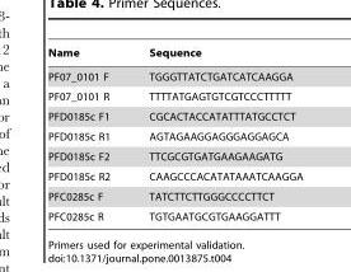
<table><thead><tr><td>Name</td><td>Sequence</td></tr></thead><tbody><tr><td>PF07_0101 F</td><td>TGGGTTATCTGATCATCAAGGA</td></tr><tr><td>PF07_0101 R</td><td>TTTTATGAGTGTCGTCCCTTTTT</td></tr><tr><td>PFD0185c F1</td><td>CGCACTACCATATTTATGCCTCT</td></tr><tr><td>PFD0185c R1</td><td>AGTAGAAGGAGGGAGGAGCA</td></tr><tr><td>PFD0185c F2</td><td>TTCGCGTGATGAAGAAGATG</td></tr><tr><td>PFD0185c R2</td><td>CAAGCCCACATATAAATCAAGGA</td></tr><tr><td>PFC0285c F</td><td>TATCTTCTTGGGCCCCTTCT</td></tr><tr><td>PFC0285c R</td><td>TGTGAATGCGTGAAGGATTT</td></tr></tbody></table>